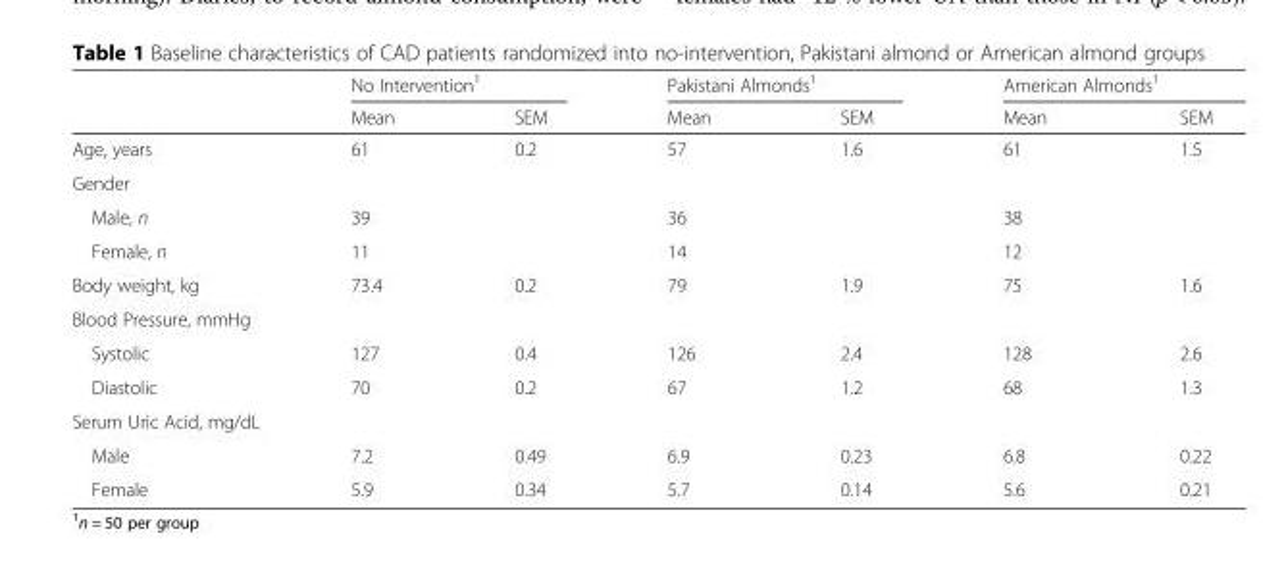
<table><thead><tr><td rowspan="2"></td><td colspan="2">No Intervention<sup>1</sup></td><td colspan="2">Pakistani Almonds<sup>1</sup></td><td colspan="2">American Almonds<sup>1</sup></td></tr><tr><td>Mean</td><td>SEM</td><td>Mean</td><td>SEM</td><td>Mean</td><td>SEM</td></tr></thead><tbody><tr><td>Age, years</td><td>61</td><td>0.2</td><td>57</td><td>1.6</td><td>61</td><td>1.5</td></tr><tr><td colspan="7">Gender</td></tr><tr><td>Male, n</td><td>39</td><td></td><td>36</td><td></td><td>38</td><td></td></tr><tr><td>Female, n</td><td>11</td><td></td><td>14</td><td></td><td>12</td><td></td></tr><tr><td>Body weight, kg</td><td>73.4</td><td>0.2</td><td>79</td><td>1.9</td><td>75</td><td>1.6</td></tr><tr><td colspan="7">Blood Pressure, mmHg</td></tr><tr><td>Systolic</td><td>127</td><td>0.4</td><td>126</td><td>2.4</td><td>128</td><td>2.6</td></tr><tr><td>Diastolic</td><td>70</td><td>0.2</td><td>67</td><td>1.2</td><td>68</td><td>1.3</td></tr><tr><td colspan="7">Serum Uric Acid, mg/dL</td></tr><tr><td>Male</td><td>7.2</td><td>0.49</td><td>6.9</td><td>0.23</td><td>6.8</td><td>0.22</td></tr><tr><td>Female</td><td>5.9</td><td>0.34</td><td>5.7</td><td>0.14</td><td>5.6</td><td>0.21</td></tr></tbody></table>